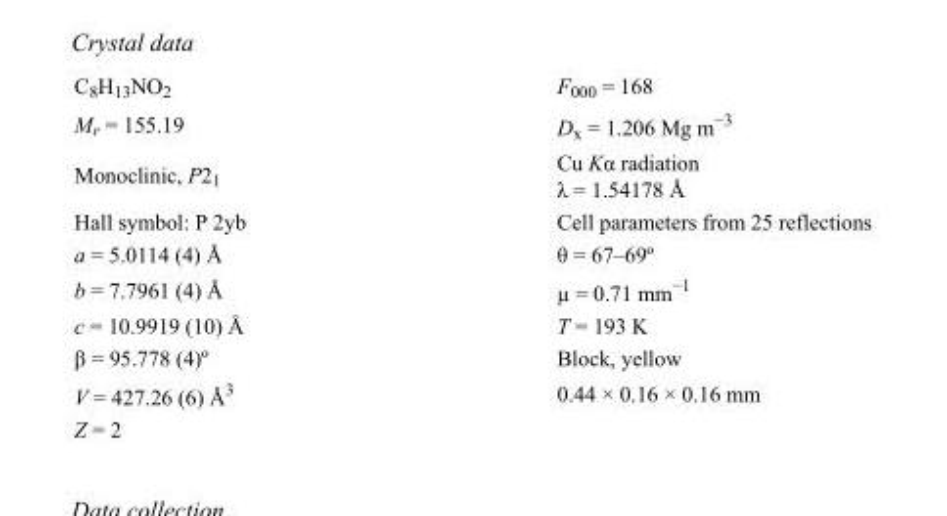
<table><tbody><tr><td>C<sub>8</sub>H<sub>13</sub>NO<sub>2</sub></td><td>F000 = 168</td></tr><tr><td>M<sub>r</sub> = 155.19</td><td>D<sub>x</sub> = 1.206 Mg m<sup>−3</sup></td></tr><tr><td>Monoclinic, P2<sub>1</sub></td><td>Cu Kα radiation λ = 1.54178 Å</td></tr><tr><td>Hall symbol: P 2yb</td><td>Cell parameters from 25 reflections</td></tr><tr><td>a = 5.0114 (4) Å</td><td>θ = 67–69º</td></tr><tr><td>b = 7.7961 (4) Å</td><td>µ = 0.71 mm<sup>−1</sup></td></tr><tr><td>c = 10.9919 (10) Å</td><td>T = 193 K</td></tr><tr><td>β = 95.778 (4)º</td><td>Block, yellow</td></tr><tr><td>V = 427.26 (6) Å<sup>3</sup></td><td>0.44 × 0.16 × 0.16 mm</td></tr><tr><td>Z = 2</td><td></td></tr></tbody></table>